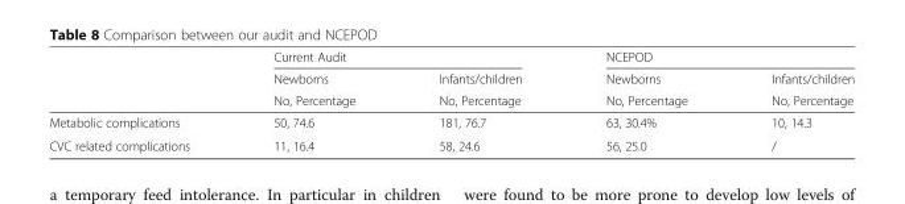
<table><thead><tr><td rowspan="3"></td><td colspan="2">Current Audit</td><td colspan="2">NCEPOD</td></tr><tr><td rowspan="2">Newborns No, Percentage</td><td rowspan="2">Infants/children No, Percentage</td><td rowspan="2">Newborns No, Percentage</td><td rowspan="2">Infants/children No, Percentage</td></tr><tr></tr></thead><tbody><tr><td>Metabolic complications</td><td>50, 74.6</td><td>181, 76.7</td><td>63, 30.4%</td><td>10, 14.3</td></tr><tr><td>CVC related complications</td><td>11, 16.4</td><td>58, 24.6</td><td>56, 25.0</td><td>/</td></tr></tbody></table>